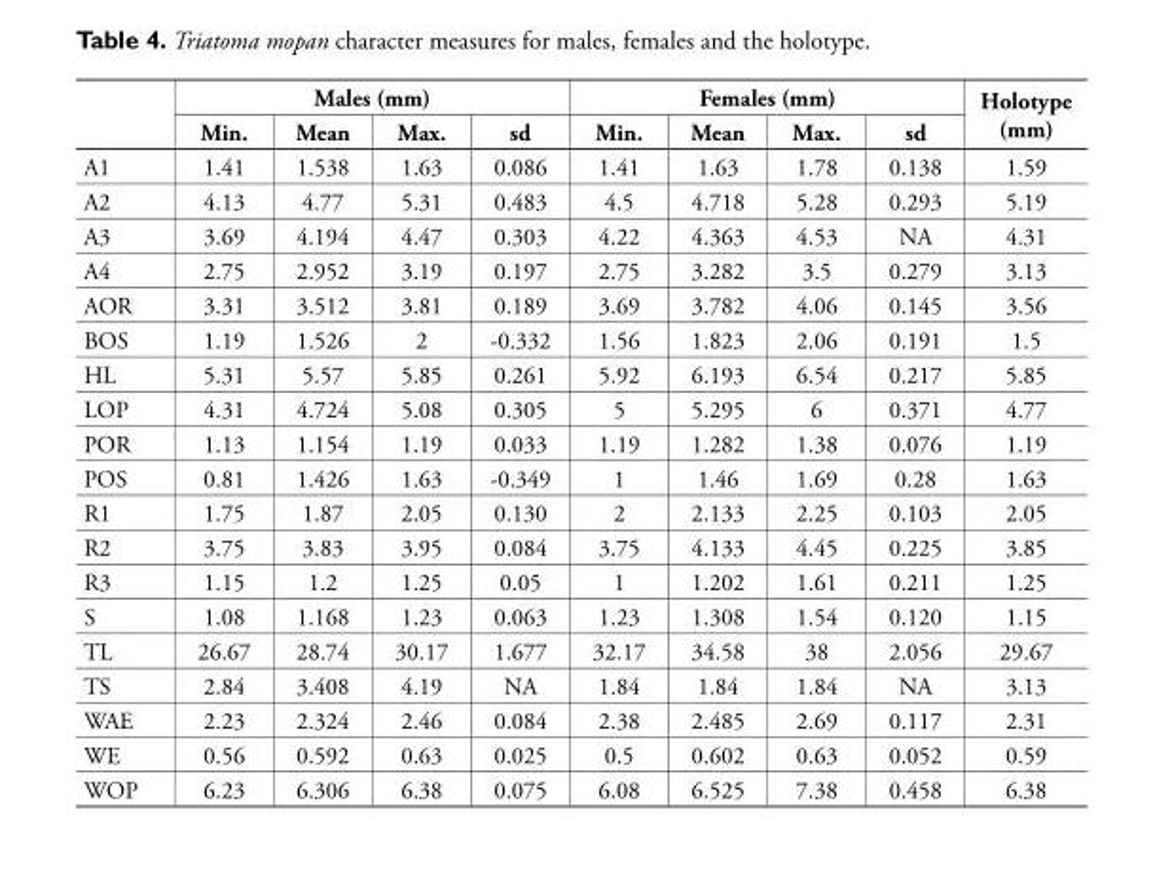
<table><thead><tr><td rowspan="2"></td><td colspan="4">Males (mm)</td><td colspan="4">Females (mm)</td><td rowspan="2">Holotype (mm)</td></tr><tr><td>Min.</td><td>Mean</td><td>Max.</td><td>sd</td><td>Min.</td><td>Mean</td><td>Max.</td><td>sd</td></tr></thead><tbody><tr><td>A1</td><td>1.41</td><td>1.538</td><td>1.63</td><td>0.086</td><td>1.41</td><td>1.63</td><td>1.78</td><td>0.138</td><td>1.59</td></tr><tr><td>A2</td><td>4.13</td><td>4.77</td><td>5.31</td><td>0.483</td><td>4.5</td><td>4.718</td><td>5.28</td><td>0.293</td><td>5.19</td></tr><tr><td>A3</td><td>3.69</td><td>4.194</td><td>4.47</td><td>0.303</td><td>4.22</td><td>4.363</td><td>4.53</td><td>NA</td><td>4.31</td></tr><tr><td>A4</td><td>2.75</td><td>2.952</td><td>3.19</td><td>0.197</td><td>2.75</td><td>3.282</td><td>3.5</td><td>0.279</td><td>3.13</td></tr><tr><td>AOR</td><td>3.31</td><td>3.512</td><td>3.81</td><td>0.189</td><td>3.69</td><td>3.782</td><td>4.06</td><td>0.145</td><td>3.56</td></tr><tr><td>BOS</td><td>1.19</td><td>1.526</td><td>2</td><td>-0.332</td><td>1.56</td><td>1.823</td><td>2.06</td><td>0.191</td><td>1.5</td></tr><tr><td>HL</td><td>5.31</td><td>5.57</td><td>5.85</td><td>0.261</td><td>5.92</td><td>6.193</td><td>6.54</td><td>0.217</td><td>5.85</td></tr><tr><td>LOP</td><td>4.31</td><td>4.724</td><td>5.08</td><td>0.305</td><td>5</td><td>5.295</td><td>6</td><td>0.371</td><td>4.77</td></tr><tr><td>POR</td><td>1.13</td><td>1.154</td><td>1.19</td><td>0.033</td><td>1.19</td><td>1.282</td><td>1.38</td><td>0.076</td><td>1.19</td></tr><tr><td>POS</td><td>0.81</td><td>1.426</td><td>1.63</td><td>-0.349</td><td>1</td><td>1.46</td><td>1.69</td><td>0.28</td><td>1.63</td></tr><tr><td>R1</td><td>1.75</td><td>1.87</td><td>2.05</td><td>0.130</td><td>2</td><td>2.133</td><td>2.25</td><td>0.103</td><td>2.05</td></tr><tr><td>R2</td><td>3.75</td><td>3.83</td><td>3.95</td><td>0.084</td><td>3.75</td><td>4.133</td><td>4.45</td><td>0.225</td><td>3.85</td></tr><tr><td>R3</td><td>1.15</td><td>1.2</td><td>1.25</td><td>0.05</td><td>1</td><td>1.202</td><td>1.61</td><td>0.211</td><td>1.25</td></tr><tr><td>S</td><td>1.08</td><td>1.168</td><td>1.23</td><td>0.063</td><td>1.23</td><td>1.308</td><td>1.54</td><td>0.120</td><td>1.15</td></tr><tr><td>TL</td><td>26.67</td><td>28.74</td><td>30.17</td><td>1.677</td><td>32.17</td><td>34.58</td><td>38</td><td>2.056</td><td>29.67</td></tr><tr><td>TS</td><td>2.84</td><td>3.408</td><td>4.19</td><td>NA</td><td>1.84</td><td>1.84</td><td>1.84</td><td>NA</td><td>3.13</td></tr><tr><td>WAE</td><td>2.23</td><td>2.324</td><td>2.46</td><td>0.084</td><td>2.38</td><td>2.485</td><td>2.69</td><td>0.117</td><td>2.31</td></tr><tr><td>WE</td><td>0.56</td><td>0.592</td><td>0.63</td><td>0.025</td><td>0.5</td><td>0.602</td><td>0.63</td><td>0.052</td><td>0.59</td></tr><tr><td>WOP</td><td>6.23</td><td>6.306</td><td>6.38</td><td>0.075</td><td>6.08</td><td>6.525</td><td>7.38</td><td>0.458</td><td>6.38</td></tr></tbody></table>